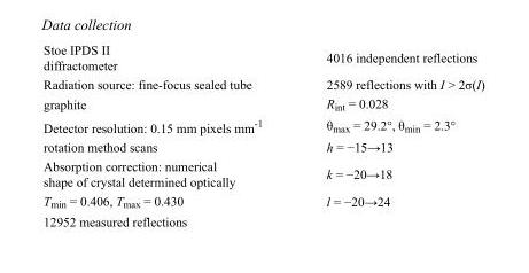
<table><tbody><tr><td>Stoe IPDS II diffractometer</td><td>4016 independent reflections</td></tr><tr><td>Radiation source: fine-focus sealed tube</td><td>2589 reflections with I &gt; 2σ(I)</td></tr><tr><td>graphite</td><td>R<sub>int</sub> = 0.028</td></tr><tr><td>Detector resolution: 0.15 mm pixels mm<sup>-1</sup></td><td>θ<sub>max</sub> = 29.2°, θ<sub>min</sub> = 2.3°</td></tr><tr><td>rotation method scans</td><td>h = −15→13</td></tr><tr><td>Absorption correction: numerical shape of crystal determined optically</td><td>k = −20→18</td></tr><tr><td>T<sub>min</sub> = 0.406, T<sub>max</sub> = 0.430</td><td>l = −20→24</td></tr><tr><td>12952 measured reflections</td><td></td></tr></tbody></table>